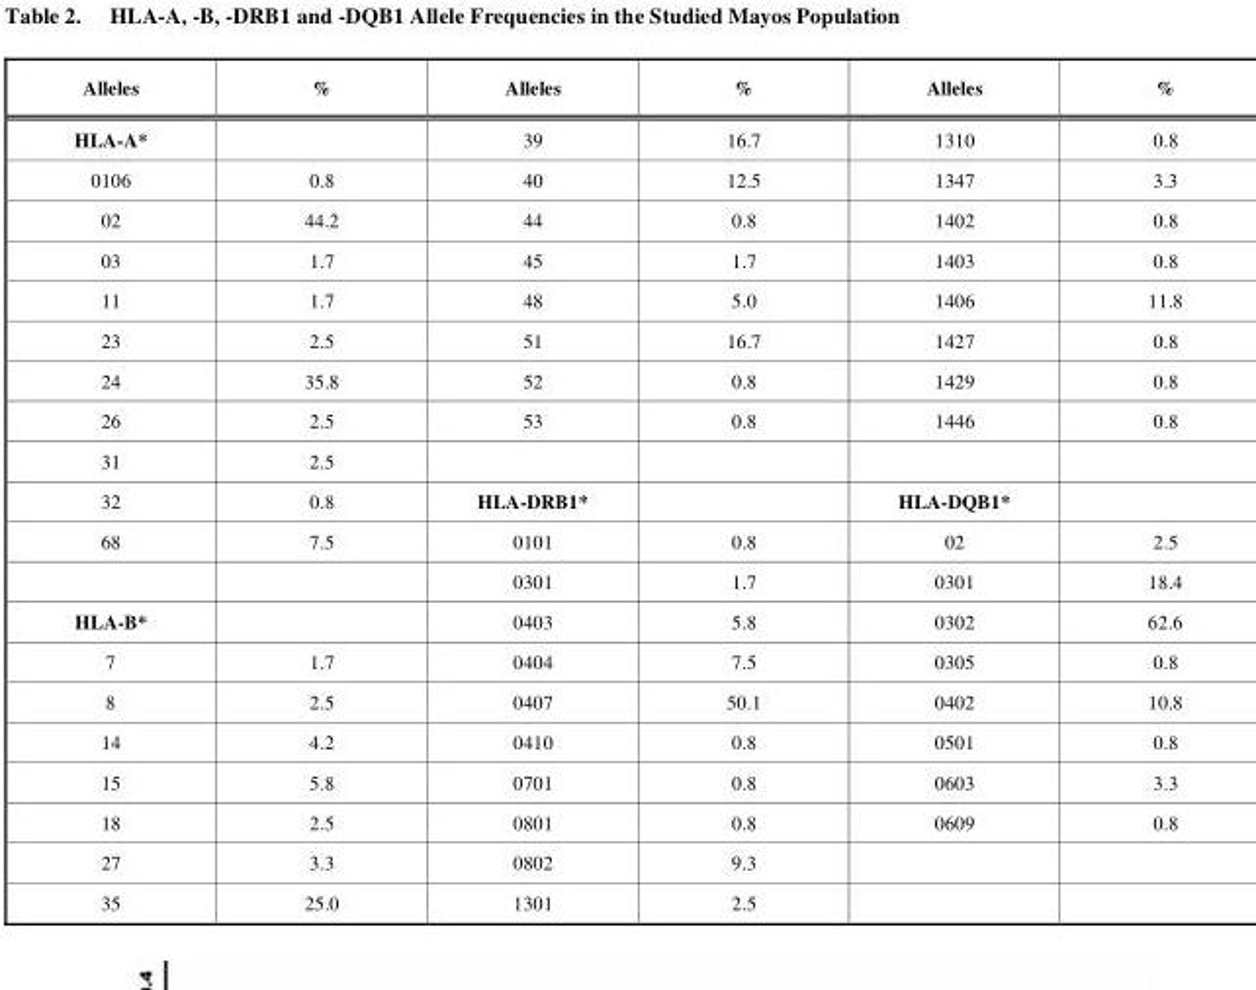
<table><thead><tr><td>Alleles</td><td>%</td><td>Alleles</td><td>%</td><td>Alleles</td><td>%</td></tr></thead><tbody><tr><td>HLA-A*</td><td></td><td>39</td><td>16.7</td><td>1310</td><td>0.8</td></tr><tr><td>0106</td><td>0.8</td><td>40</td><td>12.5</td><td>1347</td><td>3.3</td></tr><tr><td>02</td><td>44.2</td><td>44</td><td>0.8</td><td>1402</td><td>0.8</td></tr><tr><td>03</td><td>1.7</td><td>45</td><td>1.7</td><td>1403</td><td>0.8</td></tr><tr><td>11</td><td>1.7</td><td>48</td><td>5.0</td><td>1406</td><td>11.8</td></tr><tr><td>23</td><td>2.5</td><td>51</td><td>16.7</td><td>1427</td><td>0.8</td></tr><tr><td>24</td><td>35.8</td><td>52</td><td>0.8</td><td>1429</td><td>0.8</td></tr><tr><td>26</td><td>2.5</td><td>53</td><td>0.8</td><td>1446</td><td>0.8</td></tr><tr><td>31</td><td>2.5</td><td></td><td></td><td></td><td></td></tr><tr><td>32</td><td>0.8</td><td>HLA-DRB1*</td><td></td><td>HLA-DQB1*</td><td></td></tr><tr><td rowspan="2">68</td><td>7.5</td><td>0101</td><td>0.8</td><td>02</td><td>2.5</td></tr><tr><td></td><td>0301</td><td>1.7</td><td>0301</td><td>18.4</td></tr><tr><td>HLA-B*</td><td></td><td>0403</td><td>5.8</td><td>0302</td><td>62.6</td></tr><tr><td>7</td><td>1.7</td><td>0404</td><td>7.5</td><td>0305</td><td>0.8</td></tr><tr><td>8</td><td>2.5</td><td>0407</td><td>50.1</td><td>0402</td><td>10.8</td></tr><tr><td>14</td><td>4.2</td><td>0410</td><td>0.8</td><td>0501</td><td>0.8</td></tr><tr><td>15</td><td>5.8</td><td>0701</td><td>0.8</td><td>0603</td><td>3.3</td></tr><tr><td>18</td><td>2.5</td><td>0801</td><td>0.8</td><td>0609</td><td>0.8</td></tr><tr><td>27</td><td>3.3</td><td>0802</td><td>9.3</td><td></td><td></td></tr><tr><td>35</td><td>25.0</td><td>1301</td><td>2.5</td><td></td><td></td></tr></tbody></table>